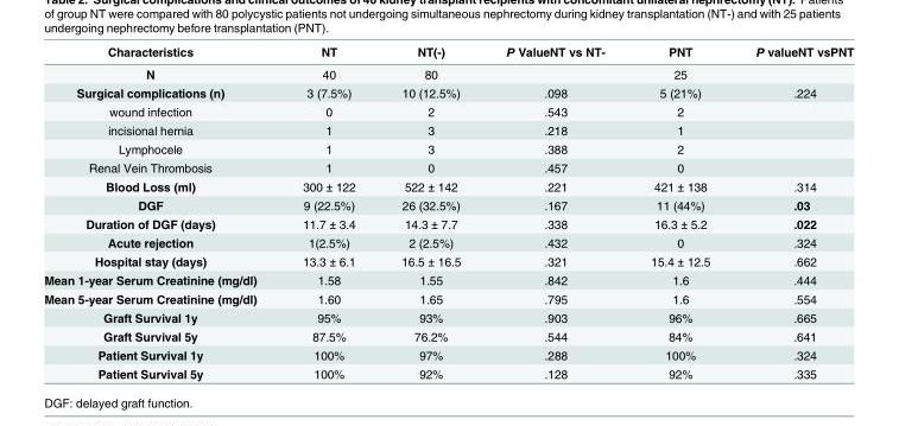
<table><thead><tr><td>Characteristics</td><td>NT</td><td>NT(-)</td><td>P ValueNT vs NT-</td><td>PNT</td><td>P valueNT vsPNT</td></tr></thead><tbody><tr><td>N</td><td>40</td><td>80</td><td></td><td>25</td><td></td></tr><tr><td>Surgical complications (n)</td><td>3 (7.5%)</td><td>10 (12.5%)</td><td>.098</td><td>5 (21%)</td><td>.224</td></tr><tr><td>wound infection</td><td>0</td><td>2</td><td>.543</td><td>2</td><td></td></tr><tr><td>incisional hernia</td><td>1</td><td>3</td><td>.218</td><td>1</td><td></td></tr><tr><td>Lymphocele</td><td>1</td><td>3</td><td>.388</td><td>2</td><td></td></tr><tr><td>Renal Vein Thrombosis</td><td>1</td><td>0</td><td>.457</td><td>0</td><td></td></tr><tr><td>Blood Loss (ml)</td><td>300 ± 122</td><td>522 ± 142</td><td>.221</td><td>421 ± 138</td><td>.314</td></tr><tr><td>DGF</td><td>9 (22.5%)</td><td>26 (32.5%)</td><td>.167</td><td>11 (44%)</td><td>.03</td></tr><tr><td>Duration of DGF (days)</td><td>11.7 ± 3.4</td><td>14.3 ± 7.7</td><td>.338</td><td>16.3 ± 5.2</td><td>.022</td></tr><tr><td>Acute rejection</td><td>1(2.5%)</td><td>2 (2.5%)</td><td>.432</td><td>0</td><td>.324</td></tr><tr><td>Hospital stay (days)</td><td>13.3 ± 6.1</td><td>16.5 ± 16.5</td><td>.321</td><td>15.4 ± 12.5</td><td>.662</td></tr><tr><td>Mean 1-year Serum Creatinine (mg/dl)</td><td>1.58</td><td>1.55</td><td>.842</td><td>1.6</td><td>.444</td></tr><tr><td>Mean 5-year Serum Creatinine (mg/dl)</td><td>1.60</td><td>1.65</td><td>.795</td><td>1.6</td><td>.554</td></tr><tr><td>Graft Survival 1y</td><td>95%</td><td>93%</td><td>.903</td><td>96%</td><td>.665</td></tr><tr><td>Graft Survival 5y</td><td>87.5%</td><td>76.2%</td><td>.544</td><td>84%</td><td>.641</td></tr><tr><td>Patient Survival 1y</td><td>100%</td><td>97%</td><td>.288</td><td>100%</td><td>.324</td></tr><tr><td>Patient Survival 5y</td><td>100%</td><td>92%</td><td>.128</td><td>92%</td><td>.335</td></tr></tbody></table>